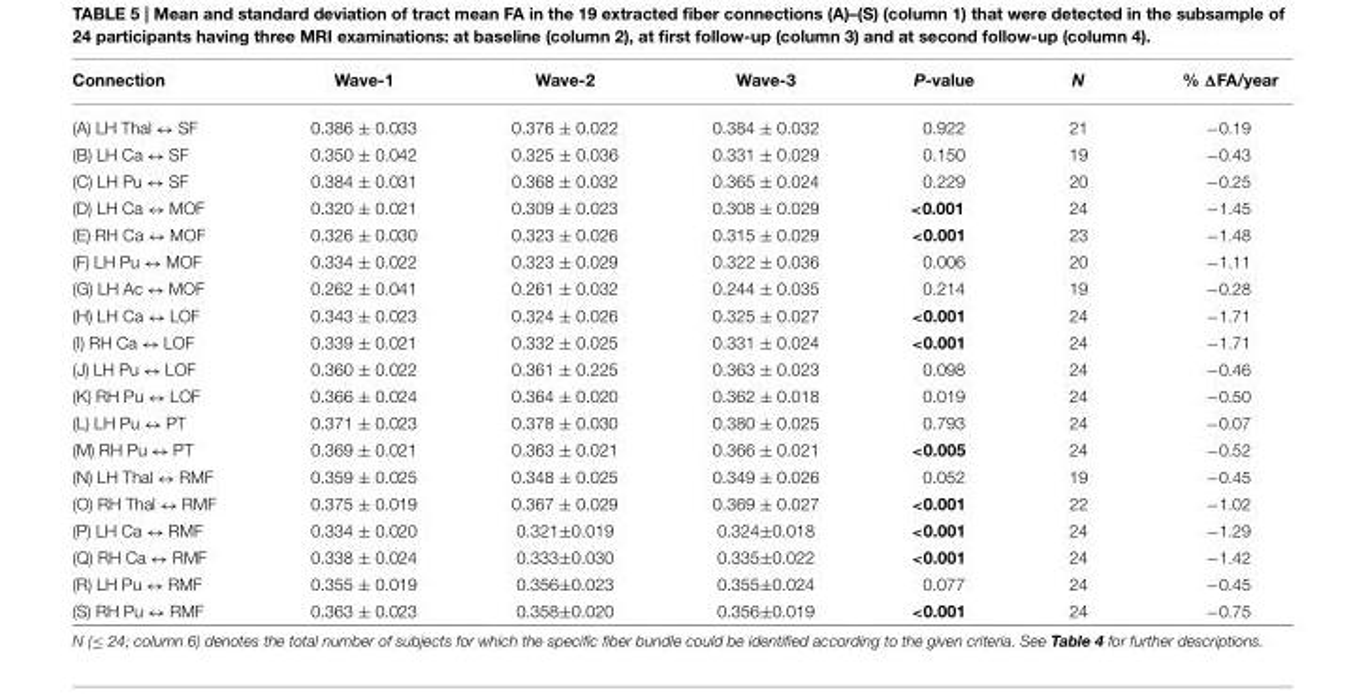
<table><thead><tr><td>Connection</td><td>Wave-1</td><td>Wave-2</td><td>Wave-3</td><td>P-value</td><td>N</td><td>% ΔFA/year</td></tr></thead><tbody><tr><td>(A) LH Thal ↔ SF</td><td>0.386 ± 0.033</td><td>0.376 ± 0.022</td><td>0.384 ± 0.032</td><td>0.922</td><td>21</td><td>−0.19</td></tr><tr><td>(B) LH Ca ↔ SF</td><td>0.350 ± 0.042</td><td>0.325 ± 0.036</td><td>0.331 ± 0.029</td><td>0.150</td><td>19</td><td>−0.43</td></tr><tr><td>(C) LH Pu ↔ SF</td><td>0.384 ± 0.031</td><td>0.368 ± 0.032</td><td>0.365 ± 0.024</td><td>0.229</td><td>20</td><td>−0.25</td></tr><tr><td>(D) LH Ca ↔ MOF</td><td>0.320 ± 0.021</td><td>0.309 ± 0.023</td><td>0.308 ± 0.029</td><td>&lt;0.001</td><td>24</td><td>−1.45</td></tr><tr><td>(E) RH Ca ↔ MOF</td><td>0.326 ± 0.030</td><td>0.323 ± 0.026</td><td>0.315 ± 0.029</td><td>&lt;0.001</td><td>23</td><td>−1.48</td></tr><tr><td>(F) LH Pu ↔ MOF</td><td>0.334 ± 0.022</td><td>0.323 ± 0.029</td><td>0.322 ± 0.036</td><td>0.006</td><td>20</td><td>−1.11</td></tr><tr><td>(G) LH Ac ↔ MOF</td><td>0.262 ± 0.041</td><td>0.261 ± 0.032</td><td>0.244 ± 0.035</td><td>0.214</td><td>19</td><td>−0.28</td></tr><tr><td>(H) LH Ca ↔ LOF</td><td>0.343 ± 0.023</td><td>0.324 ± 0.026</td><td>0.325 ± 0.027</td><td>&lt;0.001</td><td>24</td><td>−1.71</td></tr><tr><td>(I) RH Ca ↔ LOF</td><td>0.339 ± 0.021</td><td>0.332 ± 0.025</td><td>0.331 ± 0.024</td><td>&lt;0.001</td><td>24</td><td>−1.71</td></tr><tr><td>(J) LH Pu ↔ LOF</td><td>0.360 ± 0.022</td><td>0.361 ± 0.225</td><td>0.363 ± 0.023</td><td>0.098</td><td>24</td><td>−0.46</td></tr><tr><td>(K) RH Pu ↔ LOF</td><td>0.366 ± 0.024</td><td>0.364 ± 0.020</td><td>0.362 ± 0.018</td><td>0.019</td><td>24</td><td>−0.50</td></tr><tr><td>(L) LH Pu ↔ PT</td><td>0.371 ± 0.023</td><td>0.378 ± 0.030</td><td>0.380 ± 0.025</td><td>0.793</td><td>24</td><td>−0.07</td></tr><tr><td>(M) RH Pu ↔ PT</td><td>0.369 ± 0.021</td><td>0.363 ± 0.021</td><td>0.366 ± 0.021</td><td>&lt;0.005</td><td>24</td><td>−0.52</td></tr><tr><td>(N) LH Thal ↔ RMF</td><td>0.359 ± 0.025</td><td>0.348 ± 0.025</td><td>0.349 ± 0.026</td><td>0.052</td><td>19</td><td>−0.45</td></tr><tr><td>(O) RH Thal ↔ RMF</td><td>0.375 ± 0.019</td><td>0.367 ± 0.029</td><td>0.369 ± 0.027</td><td>&lt;0.001</td><td>22</td><td>−1.02</td></tr><tr><td>(P) LH Ca ↔ RMF</td><td>0.334 ± 0.020</td><td>0.321±0.019</td><td>0.324±0.018</td><td>&lt;0.001</td><td>24</td><td>−1.29</td></tr><tr><td>(Q) RH Ca ↔ RMF</td><td>0.338 ± 0.024</td><td>0.333±0.030</td><td>0.335±0.022</td><td>&lt;0.001</td><td>24</td><td>−1.42</td></tr><tr><td>(R) LH Pu ↔ RMF</td><td>0.355 ± 0.019</td><td>0.356±0.023</td><td>0.355±0.024</td><td>0.077</td><td>24</td><td>−0.45</td></tr><tr><td>(S) RH Pu ↔ RMF</td><td>0.363 ± 0.023</td><td>0.358±0.020</td><td>0.356±0.019</td><td>&lt;0.001</td><td>24</td><td>−0.75</td></tr></tbody></table>